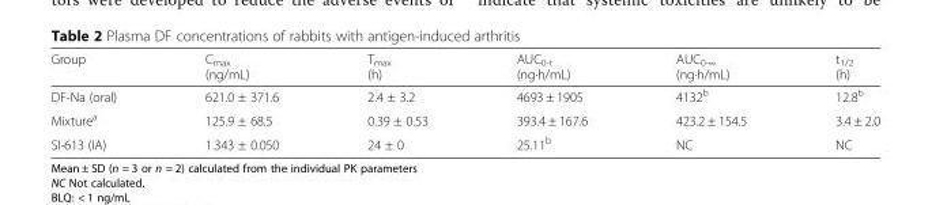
<table><thead><tr><td>Group</td><td>C<sub>max</sub> (ng/mL)</td><td>T<sub>max</sub> (h)</td><td>AUC<sub>0-t</sub> (ng·h/mL)</td><td>AUC<sub>0-∞</sub> (ng·h/mL)</td><td>t<sub>1/2</sub> (h)</td></tr></thead><tbody><tr><td>DF-Na (oral)</td><td>621.0 ± 371.6</td><td>2.4 ± 3.2</td><td>4693 ± 1905</td><td>4132<sup>b</sup></td><td>12.8<sup>b</sup></td></tr><tr><td>Mixture<sup>a</sup></td><td>125.9 ± 68.5</td><td>0.39 ± 0.53</td><td>393.4 ± 167.6</td><td>423.2 ± 154.5</td><td>3.4 ± 2.0</td></tr><tr><td>SI-613 (IA)</td><td>1.343 ± 0.050</td><td>24 ± 0</td><td>25.11<sup>b</sup></td><td>NC</td><td>NC</td></tr></tbody></table>